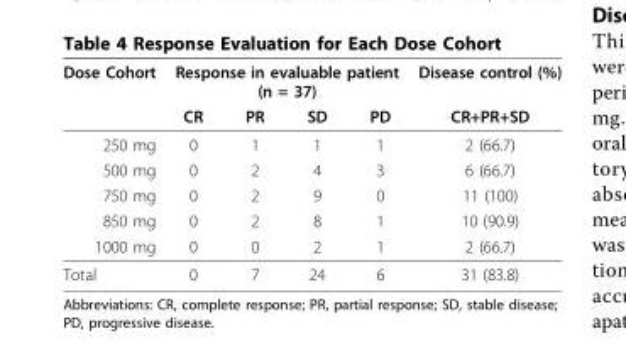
<table><thead><tr><td rowspan="2">Dose Cohort</td><td colspan="4">Response in evaluable patient (n = 37)</td><td rowspan="2">Disease control (%) CR+PR+SD</td></tr><tr><td>CR</td><td>PR</td><td>SD</td><td>PD</td></tr></thead><tbody><tr><td>250 mg</td><td>0</td><td>1</td><td>1</td><td>1</td><td>2 (66.7)</td></tr><tr><td>500 mg</td><td>0</td><td>2</td><td>4</td><td>3</td><td>6 (66.7)</td></tr><tr><td>750 mg</td><td>0</td><td>2</td><td>9</td><td>0</td><td>11 (100)</td></tr><tr><td>850 mg</td><td>0</td><td>2</td><td>8</td><td>1</td><td>10 (90.9)</td></tr><tr><td>1000 mg</td><td>0</td><td>0</td><td>2</td><td>1</td><td>2 (66.7)</td></tr><tr><td>Total</td><td>0</td><td>7</td><td>24</td><td>6</td><td>31 (83.8)</td></tr></tbody></table>